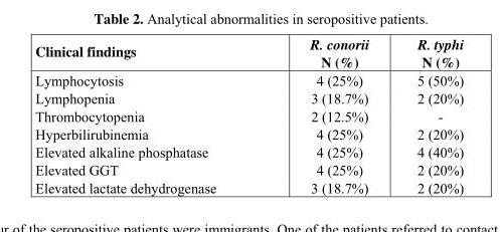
<table><thead><tr><td>Clinical findings</td><td>R. conorii N (%)</td><td>R. typhi N (%)</td></tr></thead><tbody><tr><td>Lymphocytosis</td><td>4 (25%)</td><td>5 (50%)</td></tr><tr><td>Lymphopenia</td><td>3 (18.7%)</td><td>2 (20%)</td></tr><tr><td>Thrombocytopenia</td><td>2 (12.5%)</td><td>-</td></tr><tr><td>Hyperbilirubinemia</td><td>4 (25%)</td><td>2 (20%)</td></tr><tr><td>Elevated alkaline phosphatase</td><td>4 (25%)</td><td>4 (40%)</td></tr><tr><td>Elevated GGT</td><td>4 (25%)</td><td>2 (20%)</td></tr><tr><td>Elevated lactate dehydrogenase</td><td>3 (18.7%)</td><td>2 (20%)</td></tr></tbody></table>